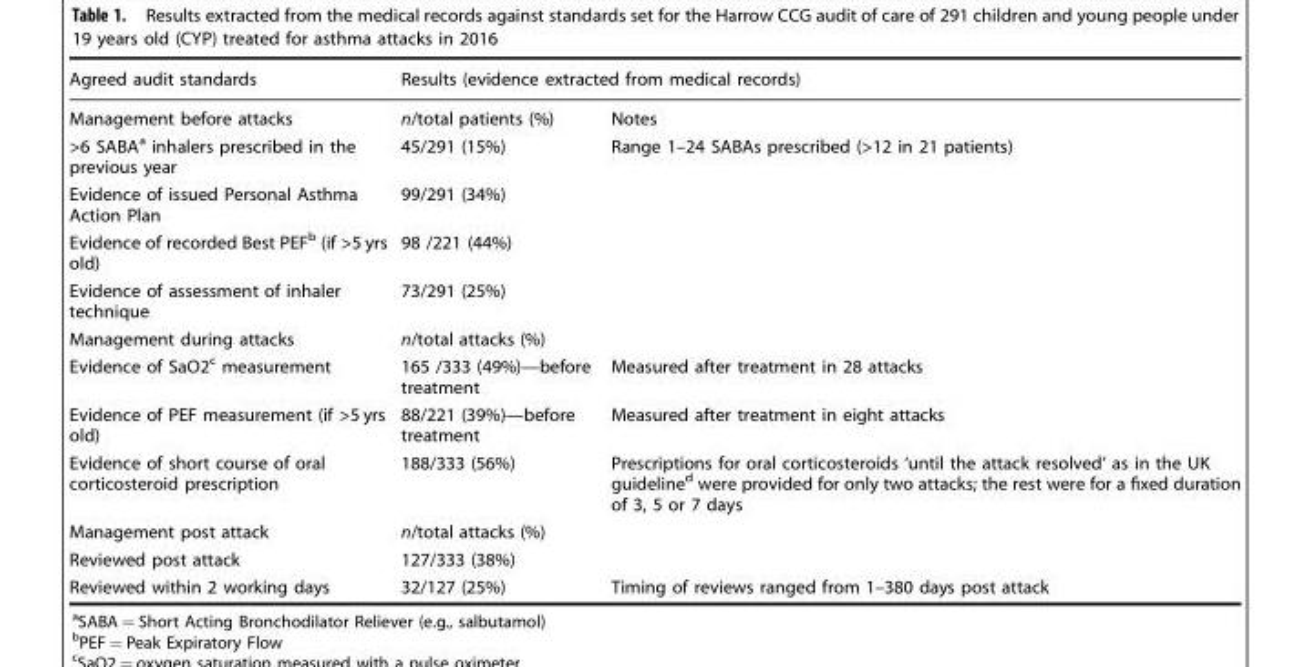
<table><thead><tr><td rowspan="2">Agreed audit standards Management before attacks</td><td colspan="2">Results (evidence extracted from medical records)</td></tr><tr><td>n/total patients (%)</td><td>Notes</td></tr></thead><tbody><tr><td>&gt;6 SABA<sup>a</sup> inhalers prescribed in the previous year</td><td>45/291 (15%)</td><td>Range 1–24 SABAs prescribed (&gt;12 in 21 patients)</td></tr><tr><td>Evidence of issued Personal Asthma Action Plan</td><td>99/291 (34%)</td><td></td></tr><tr><td>Evidence of recorded Best PEF<sup>b</sup> (if &gt;5 yrs old)</td><td>98 /221 (44%)</td><td></td></tr><tr><td>Evidence of assessment of inhaler technique</td><td>73/291 (25%)</td><td></td></tr><tr><td>Management during attacks</td><td>n/total attacks (%)</td><td></td></tr><tr><td>Evidence of SaO2<sup>c</sup> measurement</td><td>165 /333 (49%)—before treatment</td><td>Measured after treatment in 28 attacks</td></tr><tr><td>Evidence of PEF measurement (if &gt;5 yrs old)</td><td>88/221 (39%)—before treatment</td><td>Measured after treatment in eight attacks</td></tr><tr><td>Evidence of short course of oral corticosteroid prescription</td><td>188/333 (56%)</td><td>Prescriptions for oral corticosteroids ‘until the attack resolved’ as in the UK guideline<sup>d</sup> were provided for only two attacks; the rest were for a fixed duration of 3, 5 or 7 days</td></tr><tr><td>Management post attack</td><td>n/total attacks (%)</td><td></td></tr><tr><td>Reviewed post attack</td><td>127/333 (38%)</td><td></td></tr><tr><td>Reviewed within 2 working days</td><td>32/127 (25%)</td><td>Timing of reviews ranged from 1–380 days post attack</td></tr></tbody></table>